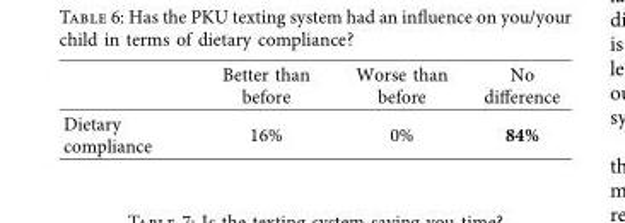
<table><thead><tr><td></td><td>Better than before</td><td>Worse than before</td><td>No difference</td></tr></thead><tbody><tr><td>Dietary compliance</td><td>16%</td><td>0%</td><td>84%</td></tr></tbody></table>